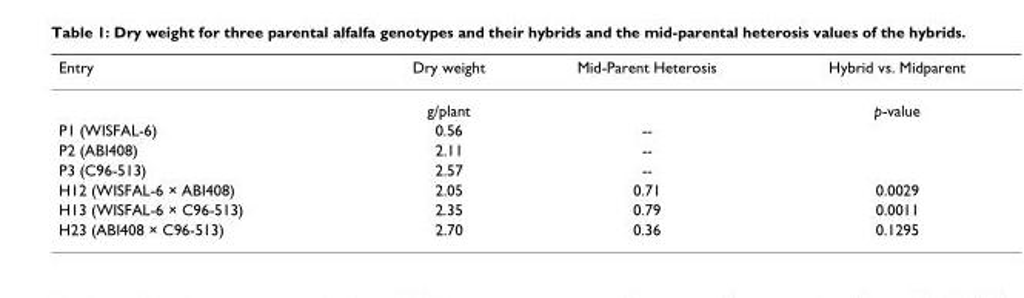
<table><thead><tr><td>Entry</td><td>Dry weight</td><td>Mid-Parent Heterosis</td><td>Hybrid vs. Midparent</td></tr></thead><tbody><tr><td></td><td>g/plant</td><td></td><td>p-value</td></tr><tr><td>P1 (WISFAL-6)</td><td>0.56</td><td>--</td><td></td></tr><tr><td>P2 (ABI408)</td><td>2.11</td><td>--</td><td></td></tr><tr><td>P3 (C96-513)</td><td>2.57</td><td>--</td><td></td></tr><tr><td>H12 (WISFAL-6 × ABI408)</td><td>2.05</td><td>0.71</td><td>0.0029</td></tr><tr><td>H13 (WISFAL-6 × C96-513)</td><td>2.35</td><td>0.79</td><td>0.0011</td></tr><tr><td>H23 (ABI408 × C96-513)</td><td>2.70</td><td>0.36</td><td>0.1295</td></tr></tbody></table>